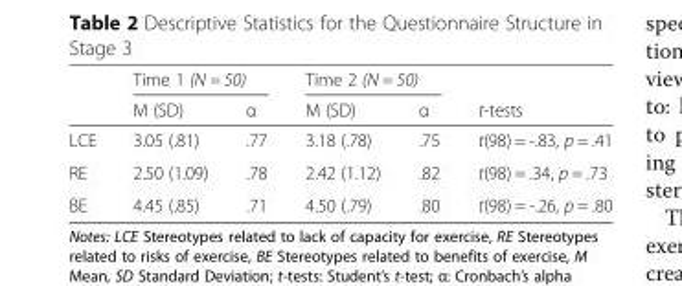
<table><thead><tr><td rowspan="2"></td><td colspan="2">Time 1 (N = 50)</td><td colspan="2">Time 2 (N = 50)</td><td rowspan="2">t-tests</td></tr><tr><td>M (SD)</td><td>α</td><td>M (SD)</td><td>α</td></tr></thead><tbody><tr><td>LCE</td><td>3.05 (.81)</td><td>.77</td><td>3.18 (.78)</td><td>.75</td><td>t(98) = -.83, p = .41</td></tr><tr><td>RE</td><td>2.50 (1.09)</td><td>.78</td><td>2.42 (1.12)</td><td>.82</td><td>t(98) = .34, p = .73</td></tr><tr><td>BE</td><td>4.45 (.85)</td><td>.71</td><td>4.50 (.79)</td><td>.80</td><td>t(98) = -.26, p = .80</td></tr></tbody></table>